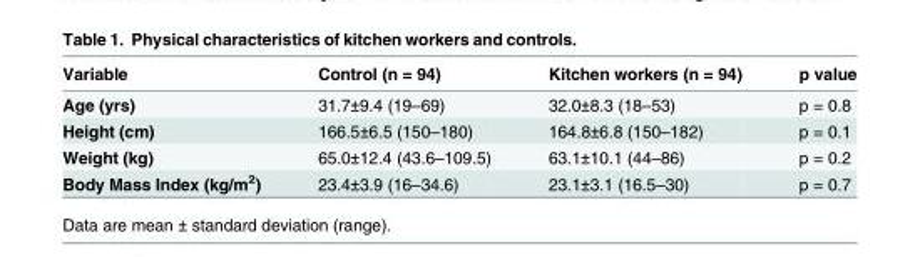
<table><thead><tr><td>Variable</td><td>Control (n = 94)</td><td>Kitchen workers (n = 94)</td><td>p value</td></tr></thead><tbody><tr><td>Age (yrs)</td><td>31.7±9.4 (19–69)</td><td>32.0±8.3 (18–53)</td><td>p = 0.8</td></tr><tr><td>Height (cm)</td><td>166.5±6.5 (150–180)</td><td>164.8±6.8 (150–182)</td><td>p = 0.1</td></tr><tr><td>Weight (kg)</td><td>65.0±12.4 (43.6–109.5)</td><td>63.1±10.1 (44–86)</td><td>p = 0.2</td></tr><tr><td>Body Mass Index (kg/m<sup>2</sup>)</td><td>23.4±3.9 (16–34.6)</td><td>23.1±3.1 (16.5–30)</td><td>p = 0.7</td></tr></tbody></table>